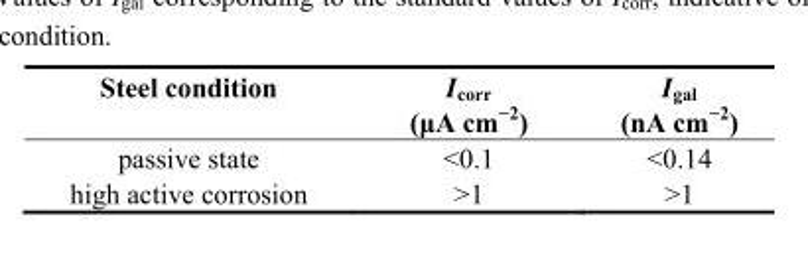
<table><thead><tr><td>Steel condition</td><td>I<sub>corr</sub> (μA cm<sup>−2</sup>)</td><td>I<sub>gal</sub> (nA cm<sup>−2</sup>)</td></tr></thead><tbody><tr><td>passive state</td><td>&lt;0.1</td><td>&lt;0.14</td></tr><tr><td>high active corrosion</td><td>&gt;1</td><td>&gt;1</td></tr></tbody></table>